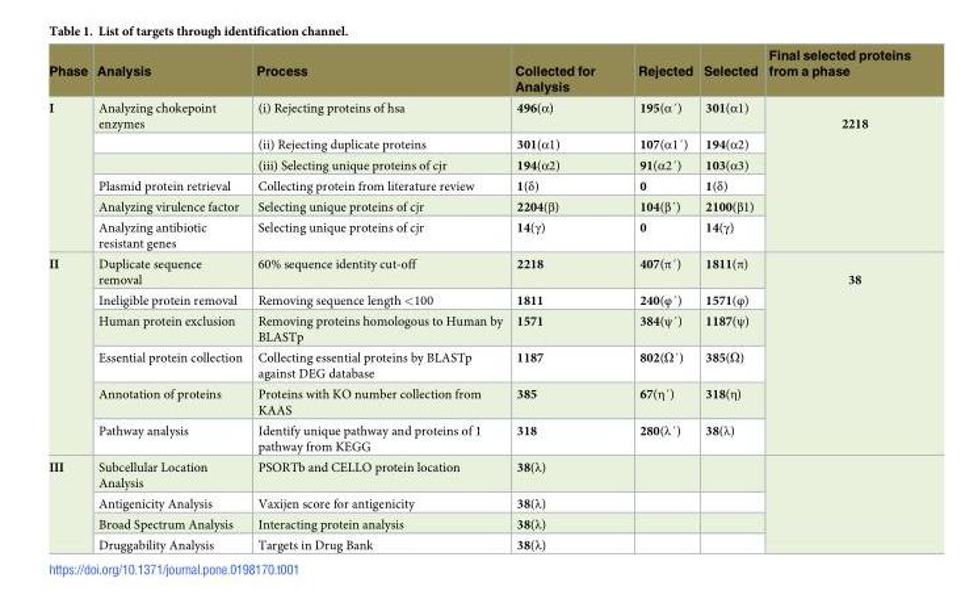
<table><thead><tr><td>Phase</td><td>Analysis</td><td>Process</td><td>Collected for Analysis</td><td>Rejected</td><td>Selected</td><td>Final selected proteins from a phase</td></tr></thead><tbody><tr><td rowspan="6">I</td><td>Analyzing chokepoint enzymes</td><td>(i) Rejecting proteins of hsa</td><td>496(α)</td><td>195(α´)</td><td>301(α1)</td><td rowspan="6">2218</td></tr><tr><td></td><td>(ii) Rejecting duplicate proteins</td><td>301(α1)</td><td>107(α1´)</td><td>194(α2)</td></tr><tr><td></td><td>(iii) Selecting unique proteins of cjr</td><td>194(α2)</td><td>91(α2´)</td><td>103(α3)</td></tr><tr><td>Plasmid protein retrieval</td><td>Collecting protein from literature review</td><td>1(δ)</td><td>0</td><td>1(δ)</td></tr><tr><td>Analyzing virulence factor</td><td>Selecting unique proteins of cjr</td><td>2204(β)</td><td>104(β´)</td><td>2100(β1)</td></tr><tr><td>Analyzing antibiotic resistant genes</td><td>Selecting unique proteins of cjr</td><td>14(γ)</td><td>0</td><td>14(γ)</td></tr><tr><td rowspan="6">II</td><td>Duplicate sequence removal</td><td>60% sequence identity cut-off</td><td>2218</td><td>407(π´)</td><td>1811(π)</td><td rowspan="6">38</td></tr><tr><td>Ineligible protein removal</td><td>Removing sequence length &lt;100</td><td>1811</td><td>240(φ´)</td><td>1571(φ)</td></tr><tr><td>Human protein exclusion</td><td>Removing proteins homologous to Human by BLASTp</td><td>1571</td><td>384(ψ´)</td><td>1187(ψ)</td></tr><tr><td>Essential protein collection</td><td>Collecting essential proteins by BLASTp against DEG database</td><td>1187</td><td>802(Ω´)</td><td>385(Ω)</td></tr><tr><td>Annotation of proteins</td><td>Proteins with KO number collection from KAAS</td><td>385</td><td>67(η´)</td><td>318(η)</td></tr><tr><td>Pathway analysis</td><td>Identify unique pathway and proteins of 1 pathway from KEGG</td><td>318</td><td>280(λ´)</td><td>38(λ)</td></tr><tr><td rowspan="4">III</td><td>Subcellular Location Analysis</td><td>PSORTb and CELLO protein location</td><td>38(λ)</td><td></td><td></td><td rowspan="4"></td></tr><tr><td>Antigenicity Analysis</td><td>Vaxijen score for antigenicity</td><td>38(λ)</td><td></td><td></td></tr><tr><td>Broad Spectrum Analysis</td><td>Interacting protein analysis</td><td>38(λ)</td><td></td><td></td></tr><tr><td>Druggability Analysis</td><td>Targets in Drug Bank</td><td>38(λ)</td><td></td><td></td></tr></tbody></table>